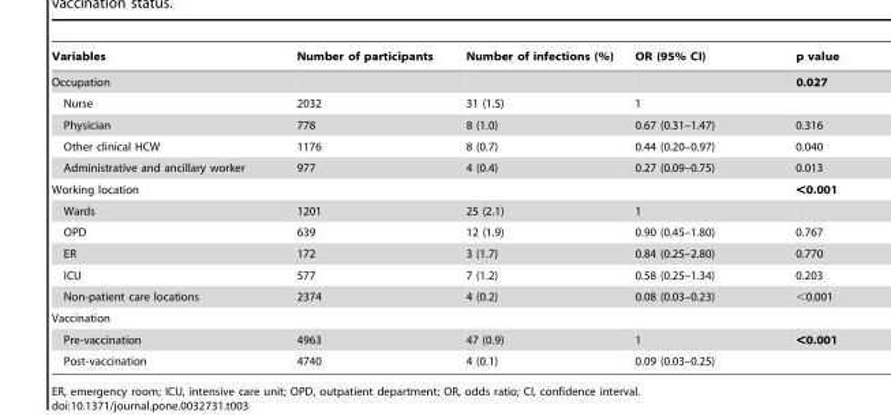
<table><thead><tr><td>Variables</td><td>Number of participants</td><td>Number of infections (%)</td><td>OR (95% CI)</td><td>p value</td></tr></thead><tbody><tr><td>Occupation</td><td></td><td></td><td></td><td>0.027</td></tr><tr><td>Nurse</td><td>2032</td><td>31 (1.5)</td><td>1</td><td></td></tr><tr><td>Physician</td><td>778</td><td>8 (1.0)</td><td>0.67 (0.31–1.47)</td><td>0.316</td></tr><tr><td>Other clinical HCW</td><td>1176</td><td>8 (0.7)</td><td>0.44 (0.20–0.97)</td><td>0.040</td></tr><tr><td>Administrative and ancillary worker</td><td>977</td><td>4 (0.4)</td><td>0.27 (0.09–0.75)</td><td>0.013</td></tr><tr><td>Working location</td><td></td><td></td><td></td><td>&lt;0.001</td></tr><tr><td>Wards</td><td>1201</td><td>25 (2.1)</td><td>1</td><td></td></tr><tr><td>OPD</td><td>639</td><td>12 (1.9)</td><td>0.90 (0.45–1.80)</td><td>0.767</td></tr><tr><td>ER</td><td>172</td><td>3 (1.7)</td><td>0.84 (0.25–2.80)</td><td>0.770</td></tr><tr><td>ICU</td><td>577</td><td>7 (1.2)</td><td>0.58 (0.25–1.34)</td><td>0.203</td></tr><tr><td>Non-patient care locations</td><td>2374</td><td>4 (0.2)</td><td>0.08 (0.03–0.23)</td><td>&lt;0.001</td></tr><tr><td colspan="5">Vaccination</td></tr><tr><td>Pre-vaccination</td><td>4963</td><td>47 (0.9)</td><td>1</td><td>&lt;0.001</td></tr><tr><td>Post-vaccination</td><td>4740</td><td>4 (0.1)</td><td>0.09 (0.03–0.25)</td><td></td></tr></tbody></table>